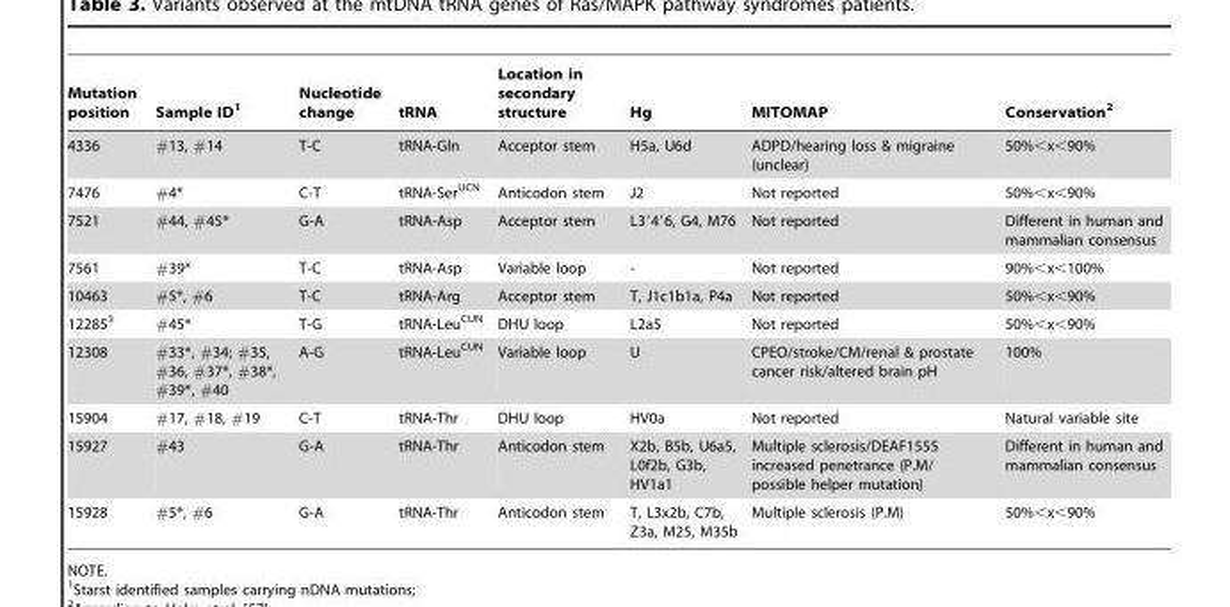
<table><thead><tr><td>Mutation position</td><td>Sample ID<sup>1</sup></td><td>Nucleotide change</td><td>tRNA</td><td>Location in secondary structure</td><td>Hg</td><td>MITOMAP</td><td>Conservation<sup>2</sup></td></tr></thead><tbody><tr><td>4336</td><td>#13, #14</td><td>T-C</td><td>tRNA-Gln</td><td>Acceptor stem</td><td>H5a, U6d</td><td>ADPD/hearing loss &amp; migraine (unclear)</td><td>50%&lt;x&lt;90%</td></tr><tr><td>7476</td><td>#4*</td><td>C-T</td><td>tRNA-Ser<sup>UCN</sup></td><td>Anticodon stem</td><td>J2</td><td>Not reported</td><td>50%&lt;x&lt;90%</td></tr><tr><td>7521</td><td>#44, #45*</td><td>G-A</td><td>tRNA-Asp</td><td>Acceptor stem</td><td>L3′4′6, G4, M76</td><td>Not reported</td><td>Different in human and mammalian consensus</td></tr><tr><td>7561</td><td>#39*</td><td>T-C</td><td>tRNA-Asp</td><td>Variable loop</td><td>-</td><td>Not reported</td><td>90%&lt;x&lt;100%</td></tr><tr><td>10463</td><td>#5*, #6</td><td>T-C</td><td>tRNA-Arg</td><td>Acceptor stem</td><td>T, J1c1b1a, P4a</td><td>Not reported</td><td>50%&lt;x&lt;90%</td></tr><tr><td>12285<sup>3</sup></td><td>#45*</td><td>T-G</td><td>tRNA-Leu<sup>CUN</sup></td><td>DHU loop</td><td>L2a5</td><td>Not reported</td><td>50%&lt;x&lt;90%</td></tr><tr><td>12308</td><td>#33*, #34; #35, #36, #37*, #38*, #39*, #40</td><td>A-G</td><td>tRNA-Leu<sup>CUN</sup></td><td>Variable loop</td><td>U</td><td>CPEO/stroke/CM/renal &amp; prostate cancer risk/altered brain pH</td><td>100%</td></tr><tr><td>15904</td><td>#17, #18, #19</td><td>C-T</td><td>tRNA-Thr</td><td>DHU loop</td><td>HV0a</td><td>Not reported</td><td>Natural variable site</td></tr><tr><td>15927</td><td>#43</td><td>G-A</td><td>tRNA-Thr</td><td>Anticodon stem</td><td>X2b, B5b, U6a5, L0f2b, G3b, HV1a1</td><td>Multiple sclerosis/DEAF1555 increased penetrance (P.M/ possible helper mutation)</td><td>Different in human and mammalian consensus</td></tr><tr><td>15928</td><td>#5*, #6</td><td>G-A</td><td>tRNA-Thr</td><td>Anticodon stem</td><td>T, L3x2b, C7b, Z3a, M25, M35b</td><td>Multiple sclerosis (P.M)</td><td>50%&lt;x&lt;90%</td></tr></tbody></table>